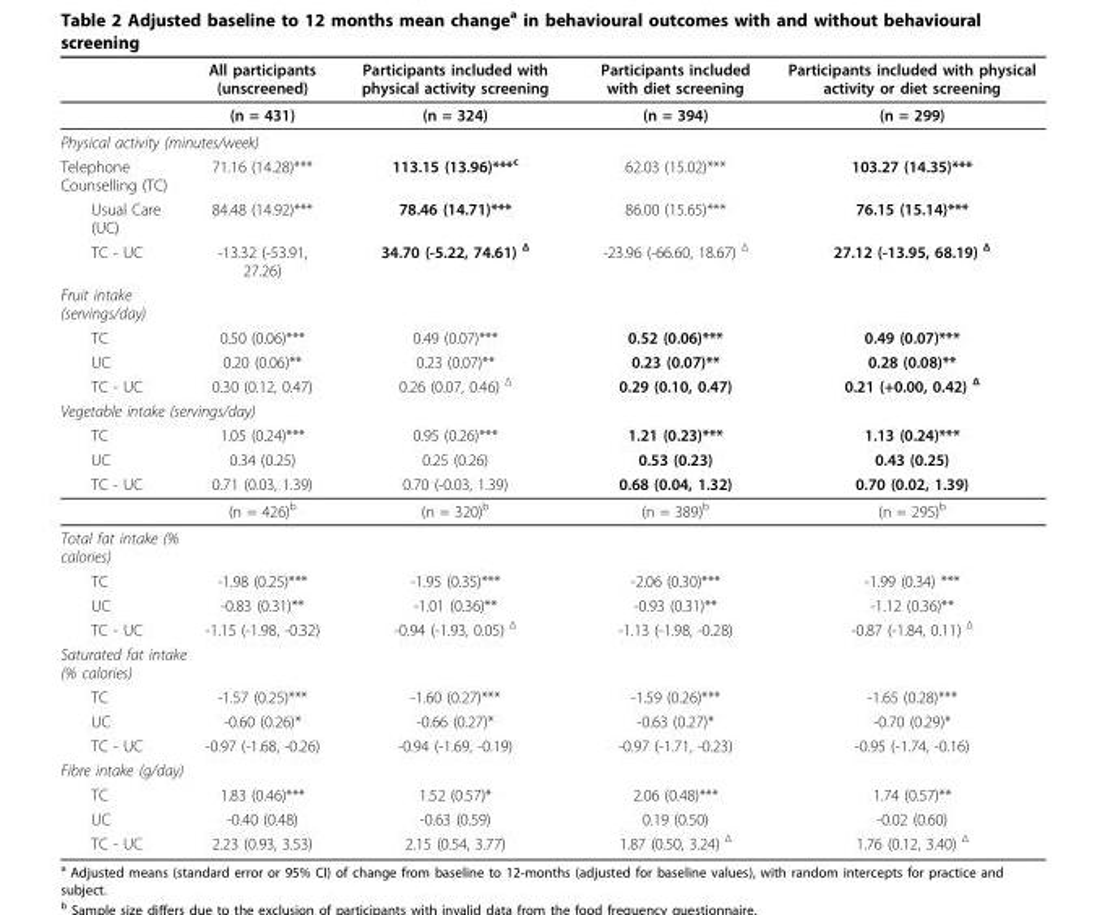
<table><thead><tr><td></td><td>All participants (unscreened)</td><td>Participants included with physical activity screening</td><td>Participants included with diet screening</td><td>Participants included with physical activity or diet screening</td></tr></thead><tbody><tr><td></td><td>(n = 431)</td><td>(n = 324)</td><td>(n = 394)</td><td>(n = 299)</td></tr><tr><td colspan="5">Physical activity (minutes/week)</td></tr><tr><td>Telephone Counselling (TC)</td><td>71.16 (14.28)***</td><td>113.15 (13.96)***<sup>c</sup></td><td>62.03 (15.02)***</td><td>103.27 (14.35)***</td></tr><tr><td>Usual Care (UC)</td><td>84.48 (14.92)***</td><td>78.46 (14.71)***</td><td>86.00 (15.65)***</td><td>76.15 (15.14)***</td></tr><tr><td>TC - UC</td><td>-13.32 (-53.91, 27.26)</td><td>34.70 (-5.22, 74.61) <sup>Δ</sup></td><td>-23.96 (-66.60, 18.67) <sup>Δ</sup></td><td>27.12 (-13.95, 68.19) <sup>Δ</sup></td></tr><tr><td colspan="5">Fruit intake (servings/day)</td></tr><tr><td>TC</td><td>0.50 (0.06)***</td><td>0.49 (0.07)***</td><td>0.52 (0.06)***</td><td>0.49 (0.07)***</td></tr><tr><td>UC</td><td>0.20 (0.06)**</td><td>0.23 (0.07)**</td><td>0.23 (0.07)**</td><td>0.28 (0.08)**</td></tr><tr><td>TC - UC</td><td>0.30 (0.12, 0.47)</td><td>0.26 (0.07, 0.46) <sup>Δ</sup></td><td>0.29 (0.10, 0.47)</td><td>0.21 (+0.00, 0.42) <sup>Δ</sup></td></tr><tr><td colspan="5">Vegetable intake (servings/day)</td></tr><tr><td>TC</td><td>1.05 (0.24)***</td><td>0.95 (0.26)***</td><td>1.21 (0.23)***</td><td>1.13 (0.24)***</td></tr><tr><td>UC</td><td>0.34 (0.25)</td><td>0.25 (0.26)</td><td>0.53 (0.23)</td><td>0.43 (0.25)</td></tr><tr><td rowspan="2">TC - UC</td><td>0.71 (0.03, 1.39)</td><td>0.70 (-0.03, 1.39)</td><td>0.68 (0.04, 1.32)</td><td>0.70 (0.02, 1.39)</td></tr><tr><td>(n = 426)<sup>b</sup></td><td>(n = 320)<sup>b</sup></td><td>(n = 389)<sup>b</sup></td><td>(n = 295)<sup>b</sup></td></tr><tr><td colspan="5">Total fat intake (% calories)</td></tr><tr><td>TC</td><td>-1.98 (0.25)***</td><td>-1.95 (0.35)***</td><td>-2.06 (0.30)***</td><td>-1.99 (0.34) ***</td></tr><tr><td>UC</td><td>-0.83 (0.31)**</td><td>-1.01 (0.36)**</td><td>-0.93 (0.31)**</td><td>-1.12 (0.36)**</td></tr><tr><td>TC - UC</td><td>-1.15 (-1.98, -0.32)</td><td>-0.94 (-1.93, 0.05) <sup>Δ</sup></td><td>-1.13 (-1.98, -0.28)</td><td>-0.87 (-1.84, 0.11) <sup>Δ</sup></td></tr><tr><td colspan="5">Saturated fat intake (% calories)</td></tr><tr><td>TC</td><td>-1.57 (0.25)***</td><td>-1.60 (0.27)***</td><td>-1.59 (0.26)***</td><td>-1.65 (0.28)***</td></tr><tr><td>UC</td><td>-0.60 (0.26)*</td><td>-0.66 (0.27)*</td><td>-0.63 (0.27)*</td><td>-0.70 (0.29)*</td></tr><tr><td>TC - UC</td><td>-0.97 (-1.68, -0.26)</td><td>-0.94 (-1.69, -0.19)</td><td>-0.97 (-1.71, -0.23)</td><td>-0.95 (-1.74, -0.16)</td></tr><tr><td colspan="5">Fibre intake (g/day)</td></tr><tr><td>TC</td><td>1.83 (0.46)***</td><td>1.52 (0.57)*</td><td>2.06 (0.48)***</td><td>1.74 (0.57)**</td></tr><tr><td>UC</td><td>-0.40 (0.48)</td><td>-0.63 (0.59)</td><td>0.19 (0.50)</td><td>-0.02 (0.60)</td></tr><tr><td>TC - UC</td><td>2.23 (0.93, 3.53)</td><td>2.15 (0.54, 3.77)</td><td>1.87 (0.50, 3.24) <sup>Δ</sup></td><td>1.76 (0.12, 3.40) <sup>Δ</sup></td></tr></tbody></table>